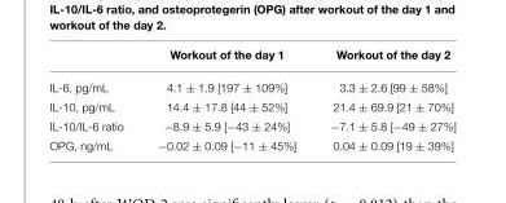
<table><thead><tr><td></td><td>Workout of the day 1</td><td>Workout of the day 2</td></tr></thead><tbody><tr><td>IL-6, pg/mL</td><td>4.1 ± 1.9 [197 ± 109%]</td><td>3.3 ± 2.6 [99 ± 58%]</td></tr><tr><td>IL-10, pg/mL</td><td>14.4 ± 17.8 [44 ± 52%]</td><td>21.4 ± 69.9 [21 ± 70%]</td></tr><tr><td>IL-10/IL-6 ratio</td><td>−8.9 ± 5.9 [−43 ± 24%]</td><td>−7.1 ± 5.8 [−49 ± 27%]</td></tr><tr><td>OPG, ng/mL</td><td>−0.02 ± 0.09 [−11 ± 45%]</td><td>0.04 ± 0.09 [19 ± 39%]</td></tr></tbody></table>